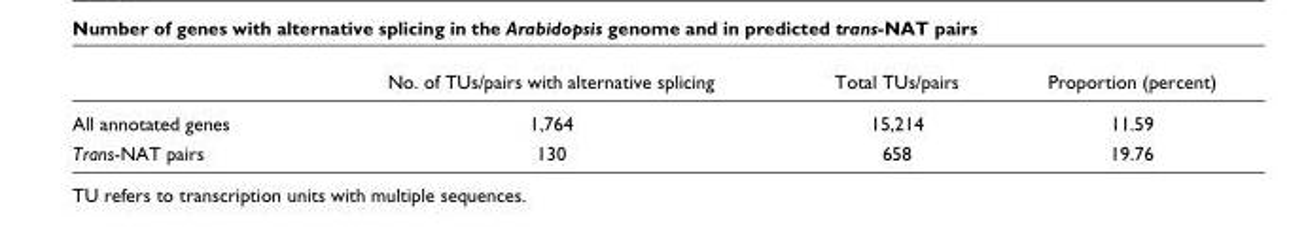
<table><thead><tr><td></td><td>No. of TUs/pairs with alternative splicing</td><td>Total TUs/pairs</td><td>Proportion (percent)</td></tr></thead><tbody><tr><td>All annotated genes</td><td>1,764</td><td>15,214</td><td>11.59</td></tr><tr><td>Trans-NAT pairs</td><td>130</td><td>658</td><td>19.76</td></tr></tbody></table>